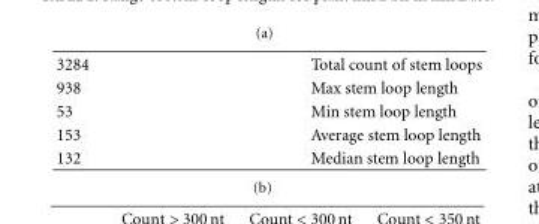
<table><tbody><tr><td>3284</td><td>Total count of stem loops</td></tr><tr><td>938</td><td>Max stem loop length</td></tr><tr><td>53</td><td>Min stem loop length</td></tr><tr><td>153</td><td>Average stem loop length</td></tr><tr><td>132</td><td>Median stem loop length</td></tr></tbody></table>